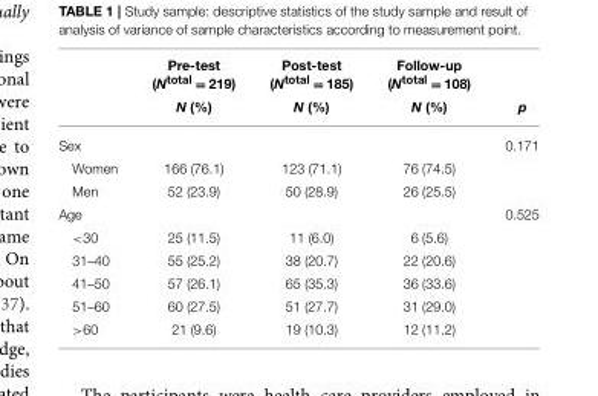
<table><thead><tr><td rowspan="2"></td><td rowspan="2">Pre-test (N<sup>total</sup> = 219) N (%)</td><td rowspan="2">Post-test (N<sup>total</sup> = 185) N (%)</td><td rowspan="2">Follow-up (N<sup>total</sup> = 108) N (%)</td><td rowspan="2">p</td></tr><tr></tr></thead><tbody><tr><td>Sex</td><td></td><td></td><td></td><td>0.171</td></tr><tr><td>Women</td><td>166 (76.1)</td><td>123 (71.1)</td><td>76 (74.5)</td><td></td></tr><tr><td>Men</td><td>52 (23.9)</td><td>50 (28.9)</td><td>26 (25.5)</td><td></td></tr><tr><td>Age</td><td></td><td></td><td></td><td>0.525</td></tr><tr><td>&lt;30</td><td>25 (11.5)</td><td>11 (6.0)</td><td>6 (5.6)</td><td></td></tr><tr><td>31–40</td><td>55 (25.2)</td><td>38 (20.7)</td><td>22 (20.6)</td><td></td></tr><tr><td>41–50</td><td>57 (26.1)</td><td>65 (35.3)</td><td>36 (33.6)</td><td></td></tr><tr><td>51–60</td><td>60 (27.5)</td><td>51 (27.7)</td><td>31 (29.0)</td><td></td></tr><tr><td>&gt;60</td><td>21 (9.6)</td><td>19 (10.3)</td><td>12 (11.2)</td><td></td></tr></tbody></table>